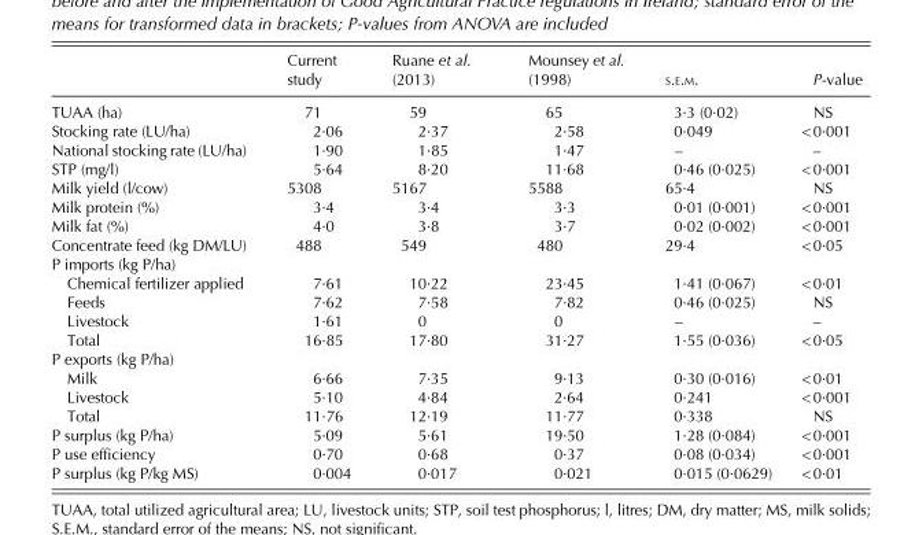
<table><thead><tr><td></td><td>Current study</td><td>Ruane et al. (2013)</td><td>Mounsey et al. (1998)</td><td>S.E.M.</td><td>P-value</td></tr></thead><tbody><tr><td>TUAA (ha)</td><td>71</td><td>59</td><td>65</td><td>3·3 (0·02)</td><td>NS</td></tr><tr><td>Stocking rate (LU/ha)</td><td>2·06</td><td>2·37</td><td>2·58</td><td>0·049</td><td>&lt;0·001</td></tr><tr><td>National stocking rate (LU/ha)</td><td>1·90</td><td>1·85</td><td>1·47</td><td>–</td><td>–</td></tr><tr><td>STP (mg/l)</td><td>5·64</td><td>8·20</td><td>11·68</td><td>0·46 (0·025)</td><td>&lt;0·001</td></tr><tr><td>Milk yield (l/cow)</td><td>5308</td><td>5167</td><td>5588</td><td>65·4</td><td>NS</td></tr><tr><td>Milk protein (%)</td><td>3·4</td><td>3·4</td><td>3·3</td><td>0·01 (0·001)</td><td>&lt;0·001</td></tr><tr><td>Milk fat (%)</td><td>4·0</td><td>3·8</td><td>3·7</td><td>0·02 (0·002)</td><td>&lt;0·001</td></tr><tr><td>Concentrate feed (kg DM/LU)</td><td>488</td><td>549</td><td>480</td><td>29·4</td><td>&lt;0·05</td></tr><tr><td colspan="6">P imports (kg P/ha)</td></tr><tr><td>Chemical fertilizer applied</td><td>7·61</td><td>10·22</td><td>23·45</td><td>1·41 (0·067)</td><td>&lt;0·01</td></tr><tr><td>Feeds</td><td>7·62</td><td>7·58</td><td>7·82</td><td>0·46 (0·025)</td><td>NS</td></tr><tr><td>Livestock</td><td>1·61</td><td>0</td><td>0</td><td>–</td><td>–</td></tr><tr><td>Total</td><td>16·85</td><td>17·80</td><td>31·27</td><td>1·55 (0·036)</td><td>&lt;0·05</td></tr><tr><td colspan="6">P exports (kg P/ha)</td></tr><tr><td>Milk</td><td>6·66</td><td>7·35</td><td>9·13</td><td>0·30 (0·016)</td><td>&lt;0·01</td></tr><tr><td>Livestock</td><td>5·10</td><td>4·84</td><td>2·64</td><td>0·241</td><td>&lt;0·001</td></tr><tr><td>Total</td><td>11·76</td><td>12·19</td><td>11·77</td><td>0·338</td><td>NS</td></tr><tr><td>P surplus (kg P/ha)</td><td>5·09</td><td>5·61</td><td>19·50</td><td>1·28 (0·084)</td><td>&lt;0·001</td></tr><tr><td>P use efficiency</td><td>0·70</td><td>0·68</td><td>0·37</td><td>0·08 (0·034)</td><td>&lt;0·001</td></tr><tr><td>P surplus (kg P/kg MS)</td><td>0·004</td><td>0·017</td><td>0·021</td><td>0·015 (0·0629)</td><td>&lt;0·01</td></tr></tbody></table>